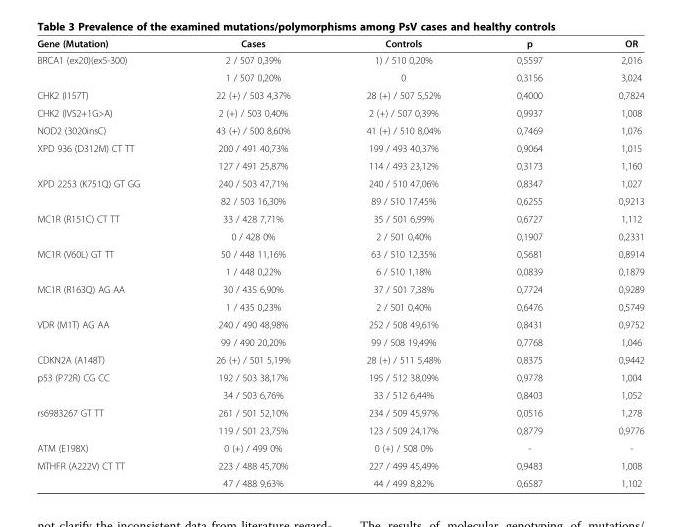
<table><thead><tr><td>Gene (Mutation)</td><td>Cases</td><td>Controls</td><td>p</td><td>OR</td></tr></thead><tbody><tr><td rowspan="2">BRCA1 (ex20)(ex5-300)</td><td>2 / 507 0,39%</td><td>1) / 510 0,20%</td><td>0,5597</td><td>2,016</td></tr><tr><td>1 / 507 0,20%</td><td>0</td><td>0,3156</td><td>3,024</td></tr><tr><td>CHK2 (I157T)</td><td>22 (+) / 503 4,37%</td><td>28 (+) / 507 5,52%</td><td>0,4000</td><td>0,7824</td></tr><tr><td>CHK2 (IVS2+1G&gt;A)</td><td>2 (+) / 503 0,40%</td><td>2 (+) / 507 0,39%</td><td>0,9937</td><td>1,008</td></tr><tr><td>NOD2 (3020insC)</td><td>43 (+) / 500 8,60%</td><td>41 (+) / 510 8,04%</td><td>0,7469</td><td>1,076</td></tr><tr><td rowspan="2">XPD 936 (D312M) CT TT</td><td>200 / 491 40,73%</td><td>199 / 493 40,37%</td><td>0,9064</td><td>1,015</td></tr><tr><td>127 / 491 25,87%</td><td>114 / 493 23,12%</td><td>0,3173</td><td>1,160</td></tr><tr><td rowspan="2">XPD 2253 (K751Q) GT GG</td><td>240 / 503 47,71%</td><td>240 / 510 47,06%</td><td>0,8347</td><td>1,027</td></tr><tr><td>82 / 503 16,30%</td><td>89 / 510 17,45%</td><td>0,6255</td><td>0,9213</td></tr><tr><td rowspan="2">MC1R (R151C) CT TT</td><td>33 / 428 7,71%</td><td>35 / 501 6,99%</td><td>0,6727</td><td>1,112</td></tr><tr><td>0 / 428 0%</td><td>2 / 501 0,40%</td><td>0,1907</td><td>0,2331</td></tr><tr><td rowspan="2">MC1R (V60L) GT TT</td><td>50 / 448 11,16%</td><td>63 / 510 12,35%</td><td>0,5681</td><td>0,8914</td></tr><tr><td>1 / 448 0,22%</td><td>6 / 510 1,18%</td><td>0,0839</td><td>0,1879</td></tr><tr><td rowspan="2">MC1R (R163Q) AG AA</td><td>30 / 435 6,90%</td><td>37 / 501 7,38%</td><td>0,7724</td><td>0,9289</td></tr><tr><td>1 / 435 0,23%</td><td>2 / 501 0,40%</td><td>0,6476</td><td>0,5749</td></tr><tr><td rowspan="2">VDR (M1T) AG AA</td><td>240 / 490 48,98%</td><td>252 / 508 49,61%</td><td>0,8431</td><td>0,9752</td></tr><tr><td>99 / 490 20,20%</td><td>99 / 508 19,49%</td><td>0,7768</td><td>1,046</td></tr><tr><td>CDKN2A (A148T)</td><td>26 (+) / 501 5,19%</td><td>28 (+) / 511 5,48%</td><td>0,8375</td><td>0,9442</td></tr><tr><td rowspan="2">p53 (P72R) CG CC</td><td>192 / 503 38,17%</td><td>195 / 512 38,09%</td><td>0,9778</td><td>1,004</td></tr><tr><td>34 / 503 6,76%</td><td>33 / 512 6,44%</td><td>0,8403</td><td>1,052</td></tr><tr><td rowspan="2">rs6983267 GT TT</td><td>261 / 501 52,10%</td><td>234 / 509 45,97%</td><td>0,0516</td><td>1,278</td></tr><tr><td>119 / 501 23,75%</td><td>123 / 509 24,17%</td><td>0,8779</td><td>0,9776</td></tr><tr><td>ATM (E198X)</td><td>0 (+) / 499 0%</td><td>0 (+) / 508 0%</td><td>-</td><td>-</td></tr><tr><td rowspan="2">MTHFR (A222V) CT TT</td><td>223 / 488 45,70%</td><td>227 / 499 45,49%</td><td>0,9483</td><td>1,008</td></tr><tr><td>47 / 488 9,63%</td><td>44 / 499 8,82%</td><td>0,6587</td><td>1,102</td></tr></tbody></table>